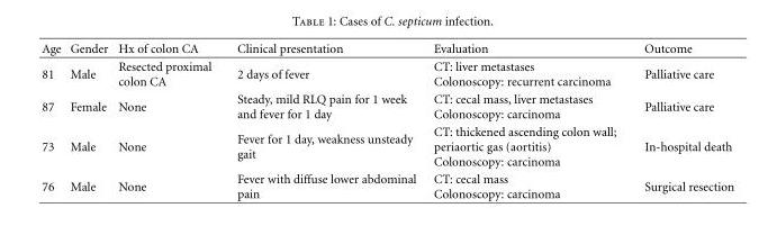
<table><thead><tr><td>Age</td><td>Gender</td><td>Hx of colon CA</td><td>Clinical presentation</td><td>Evaluation</td><td>Outcome</td></tr></thead><tbody><tr><td>81</td><td>Male</td><td>Resected proximal colon CA</td><td>2 days of fever</td><td>CT: liver metastases Colonoscopy: recurrent carcinoma</td><td>Palliative care</td></tr><tr><td>87</td><td>Female</td><td>None</td><td>Steady, mild RLQ pain for 1 week and fever for 1 day</td><td>CT: cecal mass, liver metastases Colonoscopy: carcinoma</td><td>Palliative care</td></tr><tr><td>73</td><td>Male</td><td>None</td><td>Fever for 1 day, weakness unsteady gait</td><td>CT: thickened ascending colon wall; periaortic gas (aortitis) Colonoscopy: carcinoma</td><td>In-hospital death</td></tr><tr><td>76</td><td>Male</td><td>None</td><td>Fever with diffuse lower abdominal pain</td><td>CT: cecal mass Colonoscopy: carcinoma</td><td>Surgical resection</td></tr></tbody></table>